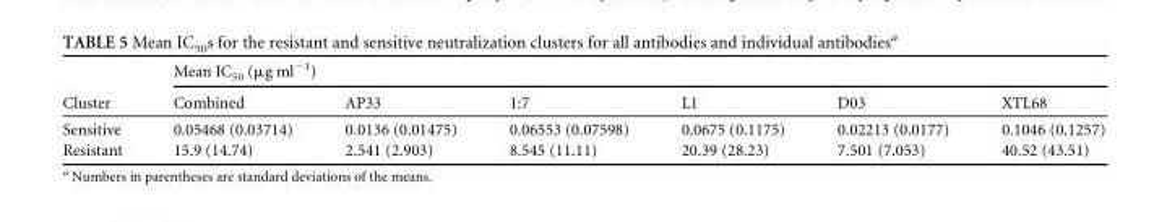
<table><thead><tr><td rowspan="2">Cluster</td><td colspan="6">Mean IC<sub>50</sub> (μg ml<sup>−1</sup>)</td></tr><tr><td>Combined</td><td>AP33</td><td>1:7</td><td>L1</td><td>D03</td><td>XTL68</td></tr></thead><tbody><tr><td>Sensitive</td><td>0.05468 (0.03714)</td><td>0.0136 (0.01475)</td><td>0.06553 (0.07598)</td><td>0.0675 (0.1175)</td><td>0.02213 (0.0177)</td><td>0.1046 (0.1257)</td></tr><tr><td>Resistant</td><td>15.9 (14.74)</td><td>2.541 (2.903)</td><td>8.545 (11.11)</td><td>20.39 (28.23)</td><td>7.501 (7.053)</td><td>40.52 (43.51)</td></tr></tbody></table>